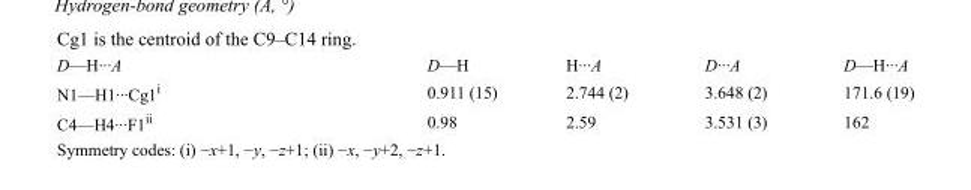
<table><tbody><tr><td>D—H···A</td><td>D—H</td><td>H···A</td><td>D···A</td><td>D—H···A</td></tr><tr><td>N1—H1···Cg1<sup>i</sup></td><td>0.911 (15)</td><td>2.744 (2)</td><td>3.648 (2)</td><td>171.6 (19)</td></tr><tr><td>C4—H4···F1<sup>ii</sup></td><td>0.98</td><td>2.59</td><td>3.531 (3)</td><td>162</td></tr></tbody></table>